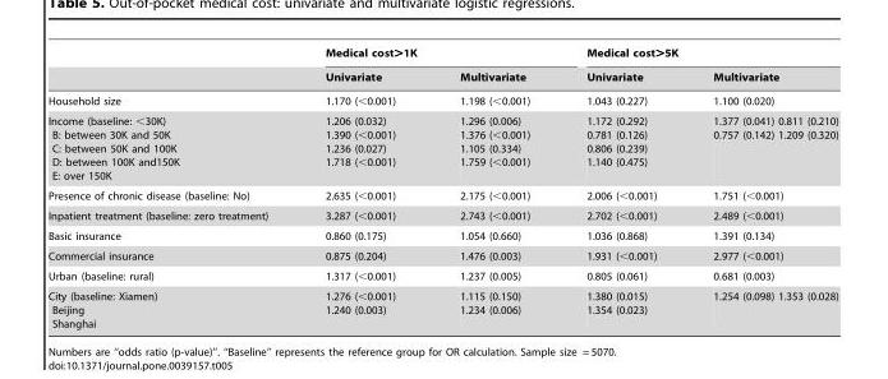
<table><thead><tr><td rowspan="2"></td><td colspan="2">Medical cost&gt;1K</td><td colspan="2">Medical cost&gt;5K</td></tr><tr><td>Univariate</td><td>Multivariate</td><td>Univariate</td><td>Multivariate</td></tr></thead><tbody><tr><td>Household size</td><td>1.170 (&lt;0.001)</td><td>1.198 (&lt;0.001)</td><td>1.043 (0.227)</td><td>1.100 (0.020)</td></tr><tr><td>Income (baseline: &lt;30K) B: between 30K and 50K C: between 50K and 100K D: between 100K and150K E: over 150K</td><td>1.206 (0.032) 1.390 (&lt;0.001) 1.236 (0.027) 1.718 (&lt;0.001)</td><td>1.296 (0.006) 1.376 (&lt;0.001) 1.105 (0.334) 1.759 (&lt;0.001)</td><td>1.172 (0.292) 0.781 (0.126) 0.806 (0.239) 1.140 (0.475)</td><td>1.377 (0.041) 0.811 (0.210) 0.757 (0.142) 1.209 (0.320)</td></tr><tr><td>Presence of chronic disease (baseline: No)</td><td>2.635 (&lt;0.001)</td><td>2.175 (&lt;0.001)</td><td>2.006 (&lt;0.001)</td><td>1.751 (&lt;0.001)</td></tr><tr><td>Inpatient treatment (baseline: zero treatment)</td><td>3.287 (&lt;0.001)</td><td>2.743 (&lt;0.001)</td><td>2.702 (&lt;0.001)</td><td>2.489 (&lt;0.001)</td></tr><tr><td>Basic insurance</td><td>0.860 (0.175)</td><td>1.054 (0.660)</td><td>1.036 (0.868)</td><td>1.391 (0.134)</td></tr><tr><td>Commercial insurance</td><td>0.875 (0.204)</td><td>1.476 (0.003)</td><td>1.931 (&lt;0.001)</td><td>2.977 (&lt;0.001)</td></tr><tr><td>Urban (baseline: rural)</td><td>1.317 (&lt;0.001)</td><td>1.237 (0.005)</td><td>0.805 (0.061)</td><td>0.681 (0.003)</td></tr><tr><td>City (baseline: Xiamen) Beijing Shanghai</td><td>1.276 (&lt;0.001) 1.240 (0.003)</td><td>1.115 (0.150) 1.234 (0.006)</td><td>1.380 (0.015) 1.354 (0.023)</td><td>1.254 (0.098) 1.353 (0.028)</td></tr></tbody></table>